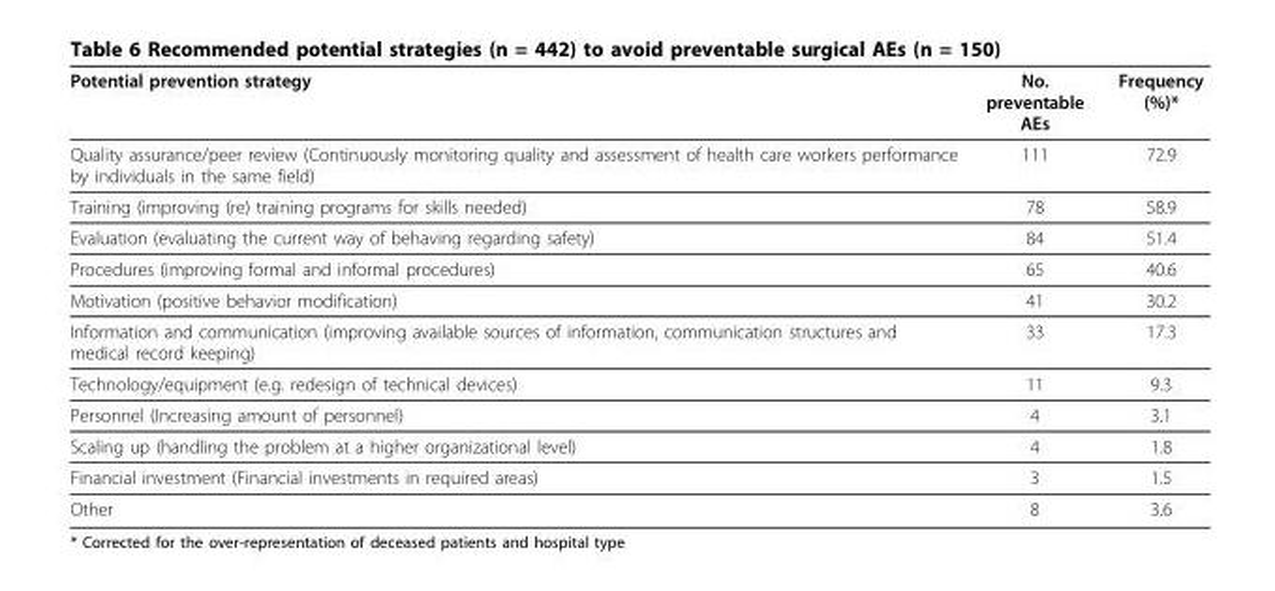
<table><thead><tr><td>Potential prevention strategy</td><td>No. preventable AEs</td><td>Frequency (%)*</td></tr></thead><tbody><tr><td>Quality assurance/peer review (Continuously monitoring quality and assessment of health care workers performance by individuals in the same field)</td><td>111</td><td>72.9</td></tr><tr><td>Training (improving (re) training programs for skills needed)</td><td>78</td><td>58.9</td></tr><tr><td>Evaluation (evaluating the current way of behaving regarding safety)</td><td>84</td><td>51.4</td></tr><tr><td>Procedures (improving formal and informal procedures)</td><td>65</td><td>40.6</td></tr><tr><td>Motivation (positive behavior modification)</td><td>41</td><td>30.2</td></tr><tr><td>Information and communication (improving available sources of information, communication structures and medical record keeping)</td><td>33</td><td>17.3</td></tr><tr><td>Technology/equipment (e.g. redesign of technical devices)</td><td>11</td><td>9.3</td></tr><tr><td>Personnel (Increasing amount of personnel)</td><td>4</td><td>3.1</td></tr><tr><td>Scaling up (handling the problem at a higher organizational level)</td><td>4</td><td>1.8</td></tr><tr><td>Financial investment (Financial investments in required areas)</td><td>3</td><td>1.5</td></tr><tr><td>Other</td><td>8</td><td>3.6</td></tr></tbody></table>